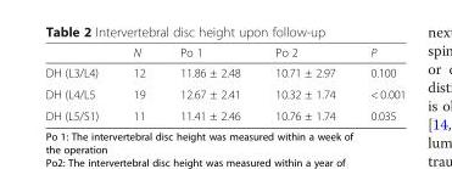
<table><thead><tr><td></td><td>N</td><td>Po 1</td><td>Po 2</td><td>P</td></tr></thead><tbody><tr><td>DH (L3/L4)</td><td>12</td><td>11.86 ± 2.48</td><td>10.71 ± 2.97</td><td>0.100</td></tr><tr><td>DH (L4/L5</td><td>19</td><td>12.67 ± 2.41</td><td>10.32 ± 1.74</td><td>&lt; 0.001</td></tr><tr><td>DH (L5/S1)</td><td>11</td><td>11.41 ± 2.46</td><td>10.76 ± 1.74</td><td>0.035</td></tr></tbody></table>